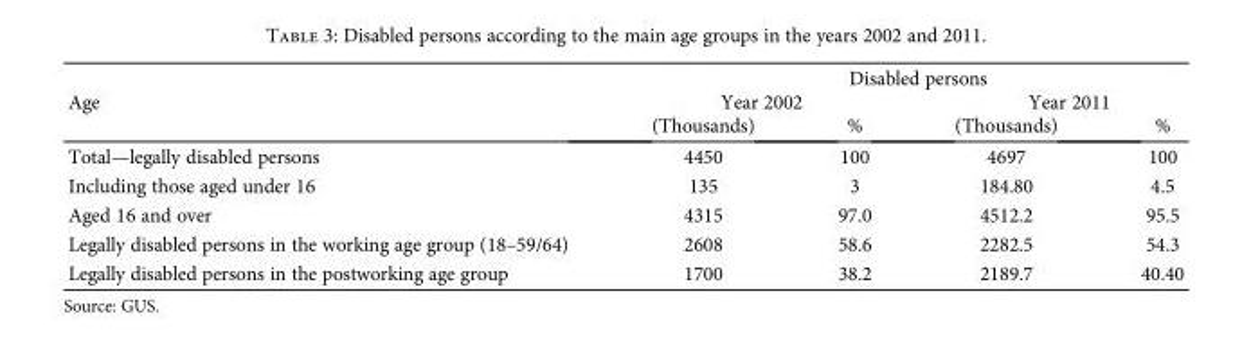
<table><thead><tr><td rowspan="3">Age</td><td colspan="4">Disabled persons</td></tr><tr><td colspan="2">Year 2002</td><td colspan="2">Year 2011</td></tr><tr><td>(Thousands)</td><td>%</td><td>(Thousands)</td><td>%</td></tr></thead><tbody><tr><td>Total—legally disabled persons</td><td>4450</td><td>100</td><td>4697</td><td>100</td></tr><tr><td>Including those aged under 16</td><td>135</td><td>3</td><td>184.80</td><td>4.5</td></tr><tr><td>Aged 16 and over</td><td>4315</td><td>97.0</td><td>4512.2</td><td>95.5</td></tr><tr><td>Legally disabled persons in the working age group (18–59/64)</td><td>2608</td><td>58.6</td><td>2282.5</td><td>54.3</td></tr><tr><td>Legally disabled persons in the postworking age group</td><td>1700</td><td>38.2</td><td>2189.7</td><td>40.40</td></tr></tbody></table>